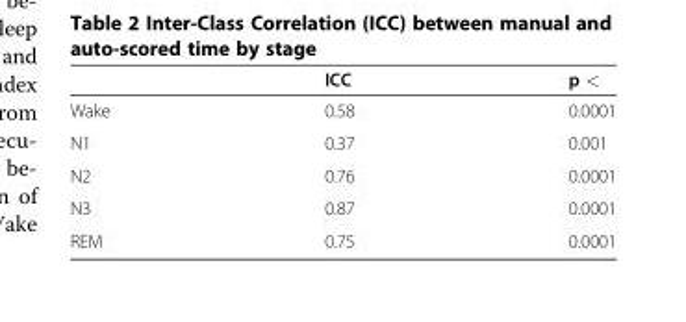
<table><thead><tr><td></td><td>ICC</td><td>p &lt;</td></tr></thead><tbody><tr><td>Wake</td><td>0.58</td><td>0.0001</td></tr><tr><td>N1</td><td>0.37</td><td>0.001</td></tr><tr><td>N2</td><td>0.76</td><td>0.0001</td></tr><tr><td>N3</td><td>0.87</td><td>0.0001</td></tr><tr><td>REM</td><td>0.75</td><td>0.0001</td></tr></tbody></table>